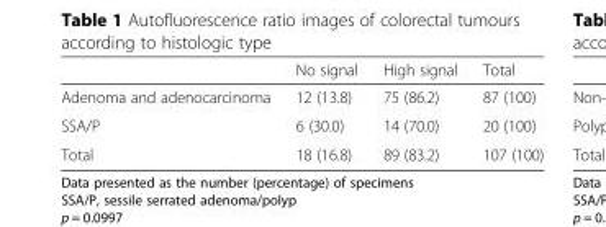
<table><thead><tr><td></td><td>No signal</td><td>High signal</td><td>Total</td></tr></thead><tbody><tr><td>Adenoma and adenocarcinoma</td><td>12 (13.8)</td><td>75 (86.2)</td><td>87 (100)</td></tr><tr><td>SSA/P</td><td>6 (30.0)</td><td>14 (70.0)</td><td>20 (100)</td></tr><tr><td>Total</td><td>18 (16.8)</td><td>89 (83.2)</td><td>107 (100)</td></tr></tbody></table>